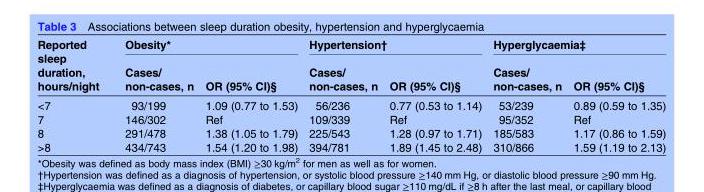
<table><thead><tr><td rowspan="2">Reported sleep duration, hours/night</td><td colspan="2">Obesity*</td><td colspan="2">Hypertension†</td><td colspan="2">Hyperglycaemia‡</td></tr><tr><td>Cases/ non-cases, n</td><td>OR (95% CI)§</td><td>Cases/ non-cases, n</td><td>OR (95% CI)§</td><td>Cases/ non-cases, n</td><td>OR (95% CI)§</td></tr></thead><tbody><tr><td>&lt;7</td><td>93/199</td><td>1.09 (0.77 to 1.53)</td><td>56/236</td><td>0.77 (0.53 to 1.14)</td><td>53/239</td><td>0.89 (0.59 to 1.35)</td></tr><tr><td>7</td><td>146/302</td><td>Ref</td><td>109/339</td><td>Ref</td><td>95/352</td><td>Ref</td></tr><tr><td>8</td><td>291/478</td><td>1.38 (1.05 to 1.79)</td><td>225/543</td><td>1.28 (0.97 to 1.71)</td><td>185/583</td><td>1.17 (0.86 to 1.59)</td></tr><tr><td>&gt;8</td><td>434/743</td><td>1.54 (1.20 to 1.98)</td><td>394/781</td><td>1.89 (1.45 to 2.48)</td><td>310/866</td><td>1.59 (1.19 to 2.13)</td></tr></tbody></table>